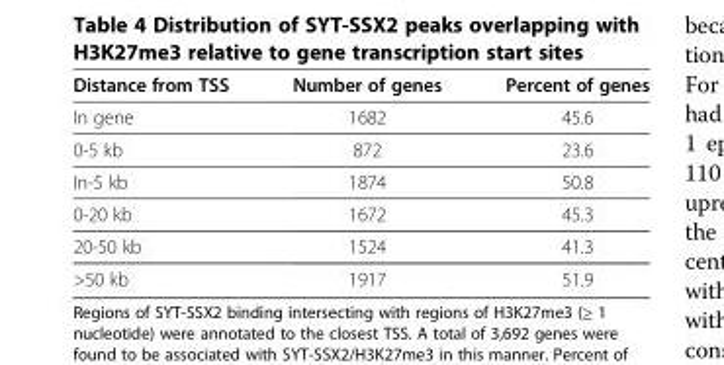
<table><thead><tr><td>Distance from TSS</td><td>Number of genes</td><td>Percent of genes</td></tr></thead><tbody><tr><td>In gene</td><td>1682</td><td>45.6</td></tr><tr><td>0-5 kb</td><td>872</td><td>23.6</td></tr><tr><td>In-5 kb</td><td>1874</td><td>50.8</td></tr><tr><td>0-20 kb</td><td>1672</td><td>45.3</td></tr><tr><td>20-50 kb</td><td>1524</td><td>41.3</td></tr><tr><td>&gt;50 kb</td><td>1917</td><td>51.9</td></tr></tbody></table>